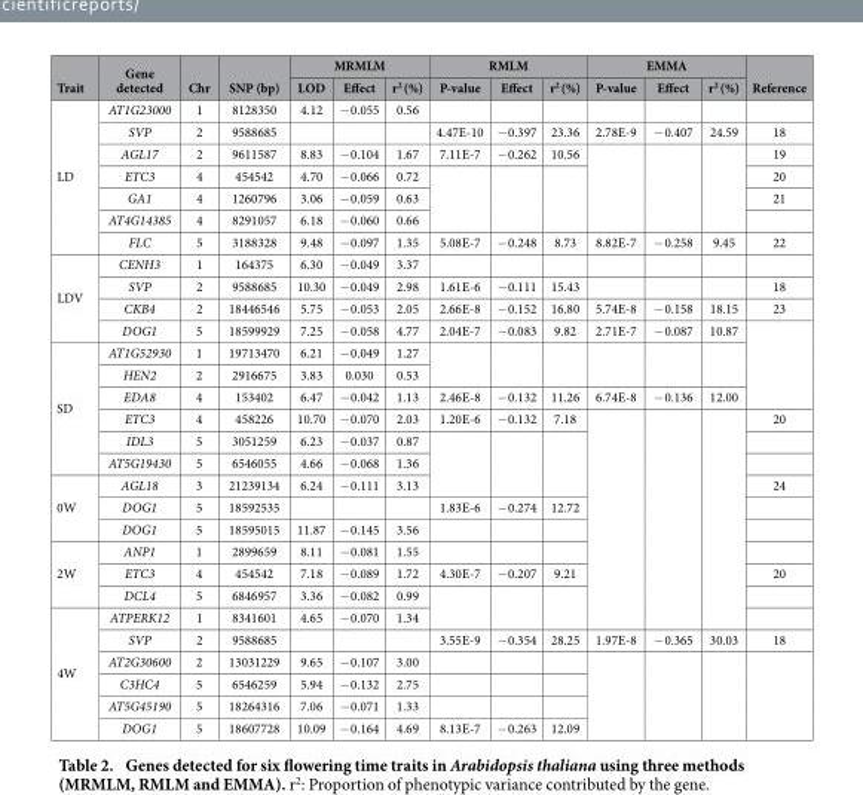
<table><thead><tr><td rowspan="2">Trait</td><td rowspan="2">Gene detected</td><td rowspan="2">Chr</td><td rowspan="2">SNP (bp)</td><td colspan="3">MRMLM</td><td colspan="3">RMLM</td><td colspan="3">EMMA</td><td rowspan="2">Reference</td></tr><tr><td>LOD</td><td>Effect</td><td>r<sup>2</sup> (%)</td><td>P-value</td><td>Effect</td><td>r<sup>2</sup> (%)</td><td>P-value</td><td>Effect</td><td>r<sup>2</sup> (%)</td></tr></thead><tbody><tr><td rowspan="7">LD</td><td>AT1G23000</td><td>1</td><td>8128350</td><td>4.12</td><td>− 0.055</td><td>0.56</td><td></td><td></td><td></td><td></td><td></td><td></td><td></td></tr><tr><td>SVP</td><td>2</td><td>9588685</td><td></td><td></td><td></td><td>4.47E-10</td><td>− 0.397</td><td>23.36</td><td>2.78E-9</td><td>− 0.407</td><td>24.59</td><td>18</td></tr><tr><td>AGL17</td><td>2</td><td>9611587</td><td>8.83</td><td>− 0.104</td><td>1.67</td><td>7.11E-7</td><td>− 0.262</td><td>10.56</td><td rowspan="4"></td><td rowspan="4"></td><td rowspan="4"></td><td>19</td></tr><tr><td>ETC3</td><td>4</td><td>454542</td><td>4.70</td><td>− 0.066</td><td>0.72</td><td rowspan="3"></td><td rowspan="3"></td><td rowspan="3"></td><td>20</td></tr><tr><td>GA1</td><td>4</td><td>1260796</td><td>3.06</td><td>− 0.059</td><td>0.63</td><td>21</td></tr><tr><td>AT4G14385</td><td>4</td><td>8291057</td><td>6.18</td><td>− 0.060</td><td>0.66</td><td></td></tr><tr><td>FLC</td><td>5</td><td>3188328</td><td>9.48</td><td>− 0.097</td><td>1.35</td><td>5.08E-7</td><td>− 0.248</td><td>8.73</td><td>8.82E-7</td><td>− 0.258</td><td>9.45</td><td>22</td></tr><tr><td rowspan="4">LDV</td><td>CENH3</td><td>1</td><td>164375</td><td>6.30</td><td>− 0.049</td><td>3.37</td><td></td><td></td><td></td><td></td><td></td><td></td><td></td></tr><tr><td>SVP</td><td>2</td><td>9588685</td><td>10.30</td><td>− 0.049</td><td>2.98</td><td>1.61E-6</td><td>− 0.111</td><td>15.43</td><td></td><td></td><td></td><td>18</td></tr><tr><td>CKB4</td><td>2</td><td>18446546</td><td>5.75</td><td>− 0.053</td><td>2.05</td><td>2.66E-8</td><td>− 0.152</td><td>16.80</td><td>5.74E-8</td><td>− 0.158</td><td>18.15</td><td>23</td></tr><tr><td>DOG1</td><td>5</td><td>18599929</td><td>7.25</td><td>− 0.058</td><td>4.77</td><td>2.04E-7</td><td>− 0.083</td><td>9.82</td><td>2.71E-7</td><td>− 0.087</td><td>10.87</td><td rowspan="3"></td></tr><tr><td rowspan="6">SD</td><td>AT1G52930</td><td>1</td><td>19713470</td><td>6.21</td><td>− 0.049</td><td>1.27</td><td rowspan="2"></td><td rowspan="2"></td><td rowspan="2"></td><td rowspan="2"></td><td rowspan="2"></td><td rowspan="2"></td></tr><tr><td>HEN2</td><td>2</td><td>2916675</td><td>3.83</td><td>0.030</td><td>0.53</td></tr><tr><td>EDA8</td><td>4</td><td>153402</td><td>6.47</td><td>− 0.042</td><td>1.13</td><td>2.46E-8</td><td>− 0.132</td><td>11.26</td><td>6.74E-8</td><td>− 0.136</td><td>12.00</td><td></td></tr><tr><td>ETC3</td><td>4</td><td>458226</td><td>10.70</td><td>− 0.070</td><td>2.03</td><td>1.20E-6</td><td>− 0.132</td><td>7.18</td><td rowspan="10"></td><td rowspan="10"></td><td rowspan="10"></td><td>20</td></tr><tr><td>IDL3</td><td>5</td><td>3051259</td><td>6.23</td><td>− 0.037</td><td>0.87</td><td rowspan="3"></td><td rowspan="3"></td><td rowspan="3"></td><td></td></tr><tr><td>AT5G19430</td><td>5</td><td>6546055</td><td>4.66</td><td>− 0.068</td><td>1.36</td><td></td></tr><tr><td rowspan="3">0W</td><td>AGL18</td><td>3</td><td>21239134</td><td>6.24</td><td>− 0.111</td><td>3.13</td><td>24</td></tr><tr><td>DOG1</td><td>5</td><td>18592535</td><td></td><td></td><td></td><td>1.83E-6</td><td>− 0.274</td><td>12.72</td><td></td></tr><tr><td>DOG1</td><td>5</td><td>18595015</td><td>11.87</td><td>− 0.145</td><td>3.56</td><td></td><td></td><td></td><td></td></tr><tr><td rowspan="3">2W</td><td>ANP1</td><td>1</td><td>2899659</td><td>8.11</td><td>− 0.081</td><td>1.55</td><td></td><td></td><td></td><td></td></tr><tr><td>ETC3</td><td>4</td><td>454542</td><td>7.18</td><td>− 0.089</td><td>1.72</td><td>4.30E-7</td><td>− 0.207</td><td>9.21</td><td>20</td></tr><tr><td>DCL4</td><td>5</td><td>6846957</td><td>3.36</td><td>− 0.082</td><td>0.99</td><td rowspan="2"></td><td rowspan="2"></td><td rowspan="2"></td><td></td></tr><tr><td rowspan="6">4W</td><td>ATPERK12</td><td>1</td><td>8341601</td><td>4.65</td><td>− 0.070</td><td>1.34</td><td></td></tr><tr><td>SVP</td><td>2</td><td>9588685</td><td></td><td></td><td></td><td>3.55E-9</td><td>− 0.354</td><td>28.25</td><td>1.97E-8</td><td>− 0.365</td><td>30.03</td><td>18</td></tr><tr><td>AT2G30600</td><td>2</td><td>13031229</td><td>9.65</td><td>− 0.107</td><td>3.00</td><td></td><td></td><td></td><td rowspan="4"></td><td rowspan="4"></td><td rowspan="4"></td><td rowspan="4"></td></tr><tr><td>C3HC4</td><td>5</td><td>6546259</td><td>5.94</td><td>− 0.132</td><td>2.75</td><td></td><td></td><td></td></tr><tr><td>AT5G45190</td><td>5</td><td>18264316</td><td>7.06</td><td>− 0.071</td><td>1.33</td><td></td><td></td><td></td></tr><tr><td>DOG1</td><td>5</td><td>18607728</td><td>10.09</td><td>− 0.164</td><td>4.69</td><td>8.13E-7</td><td>− 0.263</td><td>12.09</td></tr></tbody></table>